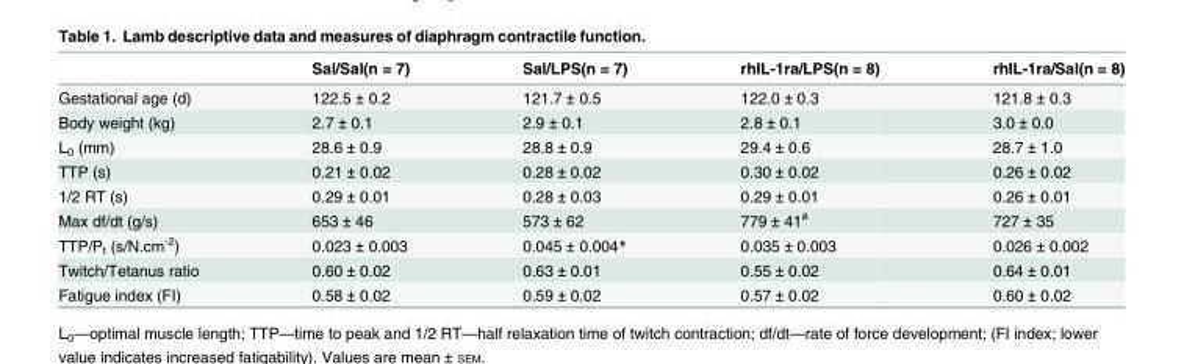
<table><thead><tr><td></td><td>Sal/Sal(n = 7)</td><td>Sal/LPS(n = 7)</td><td>rhIL-1ra/LPS(n = 8)</td><td>rhIL-1ra/Sal(n = 8)</td></tr></thead><tbody><tr><td>Gestational age (d)</td><td>122.5 ± 0.2</td><td>121.7 ± 0.5</td><td>122.0 ± 0.3</td><td>121.8 ± 0.3</td></tr><tr><td>Body weight (kg)</td><td>2.7 ± 0.1</td><td>2.9 ± 0.1</td><td>2.8 ± 0.1</td><td>3.0 ± 0.0</td></tr><tr><td>L<sub>0</sub> (mm)</td><td>28.6 ± 0.9</td><td>28.8 ± 0.9</td><td>29.4 ± 0.6</td><td>28.7 ± 1.0</td></tr><tr><td>TTP (s)</td><td>0.21 ± 0.02</td><td>0.28 ± 0.02</td><td>0.30 ± 0.02</td><td>0.26 ± 0.02</td></tr><tr><td>1/2 RT (s)</td><td>0.29 ± 0.01</td><td>0.28 ± 0.03</td><td>0.29 ± 0.01</td><td>0.26 ± 0.01</td></tr><tr><td>Max df/dt (g/s)</td><td>653 ± 46</td><td>573 ± 62</td><td>779 ± 41<sup>#</sup></td><td>727 ± 35</td></tr><tr><td>TTP/P<sub>t</sub> (s/N.cm<sup>-2</sup>)</td><td>0.023 ± 0.003</td><td>0.045 ± 0.004*</td><td>0.035 ± 0.003</td><td>0.026 ± 0.002</td></tr><tr><td>Twitch/Tetanus ratio</td><td>0.60 ± 0.02</td><td>0.63 ± 0.01</td><td>0.55 ± 0.02</td><td>0.64 ± 0.01</td></tr><tr><td>Fatigue index (FI)</td><td>0.58 ± 0.02</td><td>0.59 ± 0.02</td><td>0.57 ± 0.02</td><td>0.60 ± 0.02</td></tr></tbody></table>